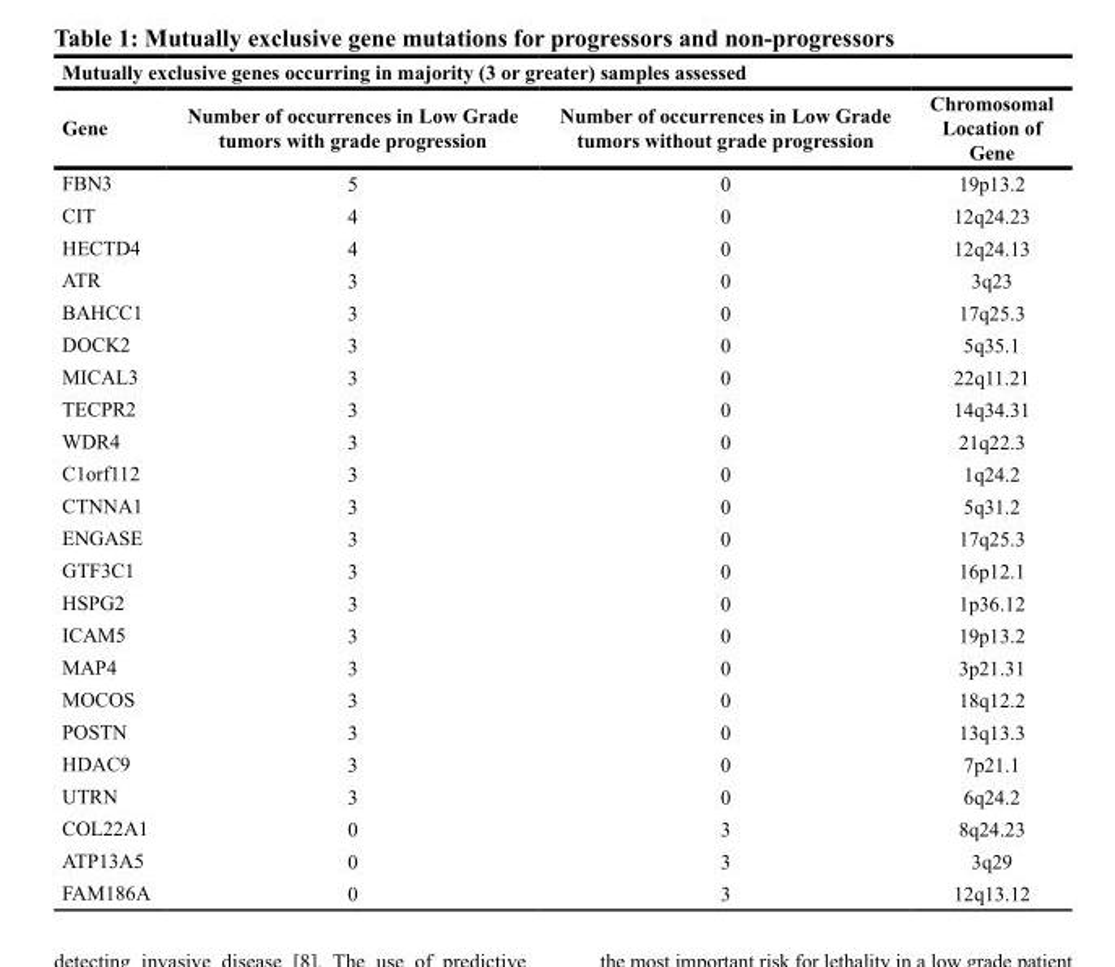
<table><thead><tr><td colspan="4">Mutually exclusive genes occurring in majority (3 or greater) samples assessed</td></tr><tr><td>Gene</td><td>Number of occurrences in Low Grade tumors with grade progression</td><td>Number of occurrences in Low Grade tumors without grade progression</td><td>Chromosomal Location of Gene</td></tr></thead><tbody><tr><td>FBN3</td><td>5</td><td>0</td><td>19p13.2</td></tr><tr><td>CIT</td><td>4</td><td>0</td><td>12q24.23</td></tr><tr><td>HECTD4</td><td>4</td><td>0</td><td>12q24.13</td></tr><tr><td>ATR</td><td>3</td><td>0</td><td>3q23</td></tr><tr><td>BAHCC1</td><td>3</td><td>0</td><td>17q25.3</td></tr><tr><td>DOCK2</td><td>3</td><td>0</td><td>5q35.1</td></tr><tr><td>MICAL3</td><td>3</td><td>0</td><td>22q11.21</td></tr><tr><td>TECPR2</td><td>3</td><td>0</td><td>14q34.31</td></tr><tr><td>WDR4</td><td>3</td><td>0</td><td>21q22.3</td></tr><tr><td>C1orf112</td><td>3</td><td>0</td><td>1q24.2</td></tr><tr><td>CTNNA1</td><td>3</td><td>0</td><td>5q31.2</td></tr><tr><td>ENGASE</td><td>3</td><td>0</td><td>17q25.3</td></tr><tr><td>GTF3C1</td><td>3</td><td>0</td><td>16p12.1</td></tr><tr><td>HSPG2</td><td>3</td><td>0</td><td>1p36.12</td></tr><tr><td>ICAM5</td><td>3</td><td>0</td><td>19p13.2</td></tr><tr><td>MAP4</td><td>3</td><td>0</td><td>3p21.31</td></tr><tr><td>MOCOS</td><td>3</td><td>0</td><td>18q12.2</td></tr><tr><td>POSTN</td><td>3</td><td>0</td><td>13q13.3</td></tr><tr><td>HDAC9</td><td>3</td><td>0</td><td>7p21.1</td></tr><tr><td>UTRN</td><td>3</td><td>0</td><td>6q24.2</td></tr><tr><td>COL22A1</td><td>0</td><td>3</td><td>8q24.23</td></tr><tr><td>ATP13A5</td><td>0</td><td>3</td><td>3q29</td></tr><tr><td>FAM186A</td><td>0</td><td>3</td><td>12q13.12</td></tr></tbody></table>